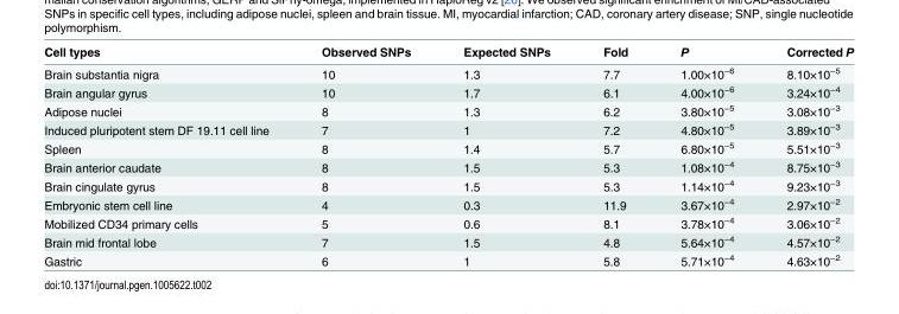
<table><thead><tr><td>Cell types</td><td>Observed SNPs</td><td>Expected SNPs</td><td>Fold</td><td>P</td><td>Corrected P</td></tr></thead><tbody><tr><td>Brain substantia nigra</td><td>10</td><td>1.3</td><td>7.7</td><td>1.00×10<sup>−6</sup></td><td>8.10×10<sup>−5</sup></td></tr><tr><td>Brain angular gyrus</td><td>10</td><td>1.7</td><td>6.1</td><td>4.00×10<sup>−6</sup></td><td>3.24×10<sup>−4</sup></td></tr><tr><td>Adipose nuclei</td><td>8</td><td>1.3</td><td>6.2</td><td>3.80×10<sup>−5</sup></td><td>3.08×10<sup>−3</sup></td></tr><tr><td>Induced pluripotent stem DF 19.11 cell line</td><td>7</td><td>1</td><td>7.2</td><td>4.80×10<sup>−5</sup></td><td>3.89×10<sup>−3</sup></td></tr><tr><td>Spleen</td><td>8</td><td>1.4</td><td>5.7</td><td>6.80×10<sup>−5</sup></td><td>5.51×10<sup>−3</sup></td></tr><tr><td>Brain anterior caudate</td><td>8</td><td>1.5</td><td>5.3</td><td>1.08×10<sup>−4</sup></td><td>8.75×10<sup>−3</sup></td></tr><tr><td>Brain cingulate gyrus</td><td>8</td><td>1.5</td><td>5.3</td><td>1.14×10<sup>−4</sup></td><td>9.23×10<sup>−3</sup></td></tr><tr><td>Embryonic stem cell line</td><td>4</td><td>0.3</td><td>11.9</td><td>3.67×10<sup>−4</sup></td><td>2.97×10<sup>−2</sup></td></tr><tr><td>Mobilized CD34 primary cells</td><td>5</td><td>0.6</td><td>8.1</td><td>3.78×10<sup>−4</sup></td><td>3.06×10<sup>−2</sup></td></tr><tr><td>Brain mid frontal lobe</td><td>7</td><td>1.5</td><td>4.8</td><td>5.64×10<sup>−4</sup></td><td>4.57×10<sup>−2</sup></td></tr><tr><td>Gastric</td><td>6</td><td>1</td><td>5.8</td><td>5.71×10<sup>−4</sup></td><td>4.63×10<sup>−2</sup></td></tr></tbody></table>